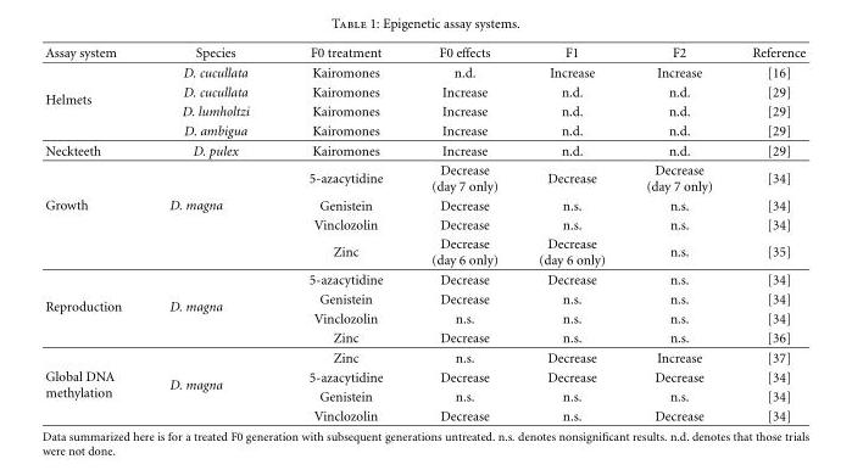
<table><thead><tr><td>Assay system</td><td>Species</td><td>F0 treatment</td><td>F0 effects</td><td>F1</td><td>F2</td><td>Reference</td></tr></thead><tbody><tr><td rowspan="4">Helmets</td><td>D. cucullata</td><td>Kairomones</td><td>n.d.</td><td>Increase</td><td>Increase</td><td>[16]</td></tr><tr><td>D. cucullata</td><td>Kairomones</td><td>Increase</td><td>n.d.</td><td>n.d.</td><td>[29]</td></tr><tr><td>D. lumholtzi</td><td>Kairomones</td><td>Increase</td><td>n.d.</td><td>n.d.</td><td>[29]</td></tr><tr><td>D. ambigua</td><td>Kairomones</td><td>Increase</td><td>n.d.</td><td>n.d.</td><td>[29]</td></tr><tr><td>Neckteeth</td><td>D. pulex</td><td>Kairomones</td><td>Increase</td><td>n.d.</td><td>n.d.</td><td>[29]</td></tr><tr><td rowspan="4">Growth</td><td rowspan="4">D. magna</td><td>5-azacytidine</td><td>Decrease (day 7 only)</td><td>Decrease</td><td>Decrease (day 7 only)</td><td>[34]</td></tr><tr><td>Genistein</td><td>Decrease</td><td>n.s.</td><td>n.s.</td><td>[34]</td></tr><tr><td>Vinclozolin</td><td>Decrease</td><td>n.s.</td><td>n.s.</td><td>[34]</td></tr><tr><td>Zinc</td><td>Decrease (day 6 only)</td><td>Decrease (day 6 only)</td><td>n.s.</td><td>[35]</td></tr><tr><td rowspan="4">Reproduction</td><td rowspan="4">D. magna</td><td>5-azacytidine</td><td>Decrease</td><td>Decrease</td><td>n.s.</td><td>[34]</td></tr><tr><td>Genistein</td><td>Decrease</td><td>n.s.</td><td>n.s.</td><td>[34]</td></tr><tr><td>Vinclozolin</td><td>n.s.</td><td>n.s.</td><td>n.s.</td><td>[34]</td></tr><tr><td>Zinc</td><td>Decrease</td><td>n.s.</td><td>n.s.</td><td>[36]</td></tr><tr><td rowspan="4">Global DNA methylation</td><td rowspan="4">D. magna</td><td>Zinc</td><td>n.s.</td><td>Decrease</td><td>Increase</td><td>[37]</td></tr><tr><td>5-azacytidine</td><td>Decrease</td><td>Decrease</td><td>Decrease</td><td>[34]</td></tr><tr><td>Genistein</td><td>n.s.</td><td>n.s.</td><td>n.s.</td><td>[34]</td></tr><tr><td>Vinclozolin</td><td>Decrease</td><td>n.s.</td><td>Decrease</td><td>[34]</td></tr></tbody></table>